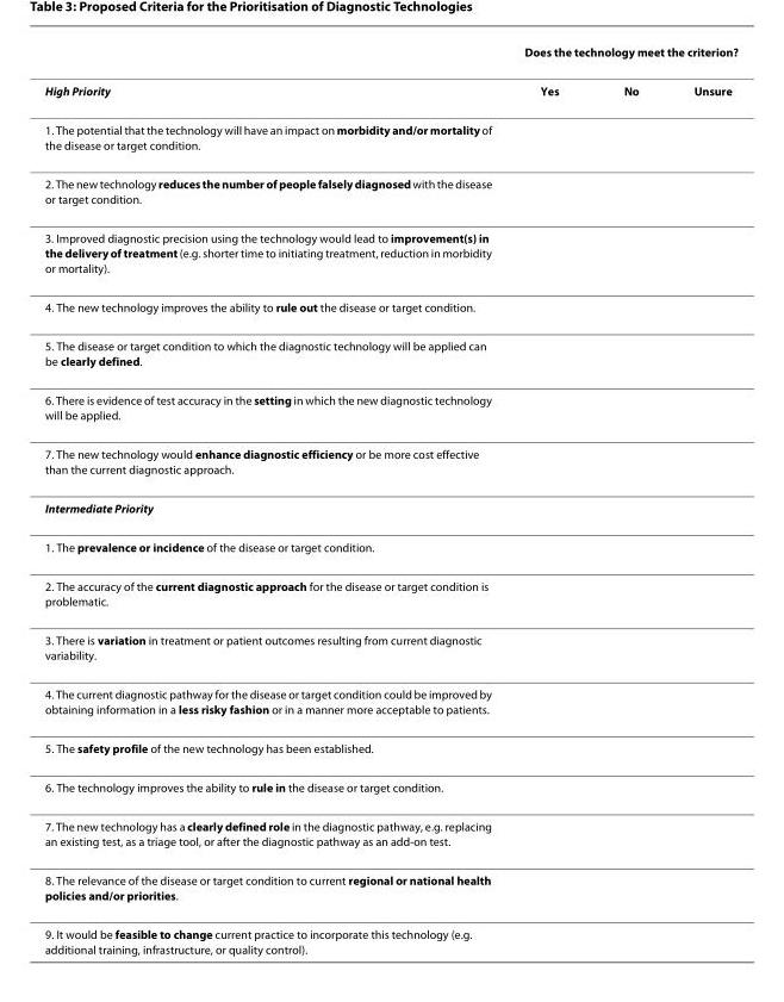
<table><thead><tr><td rowspan="2">High Priority</td><td colspan="3">Does the technology meet the criterion?</td></tr><tr><td>Yes</td><td>No</td><td>Unsure</td></tr></thead><tbody><tr><td colspan="4">1. The potential that the technology will have an impact on morbidity and/or mortality of the disease or target condition.</td></tr><tr><td colspan="4">2. The new technology reduces the number of people falsely diagnosed with the disease or target condition.</td></tr><tr><td colspan="4">3. Improved diagnostic precision using the technology would lead to improvement(s) in the delivery of treatment (e.g. shorter time to initiating treatment, reduction in morbidity or mortality).</td></tr><tr><td colspan="4">4. The new technology improves the ability to rule out the disease or target condition.</td></tr><tr><td colspan="4">5. The disease or target condition to which the diagnostic technology will be applied can be clearly defined.</td></tr><tr><td colspan="4">6. There is evidence of test accuracy in the setting in which the new diagnostic technology will be applied.</td></tr><tr><td colspan="4">7. The new technology would enhance diagnostic efficiency or be more cost effective than the current diagnostic approach.</td></tr><tr><td colspan="4">Intermediate Priority</td></tr><tr><td colspan="4">1. The prevalence or incidence of the disease or target condition.</td></tr><tr><td colspan="4">2. The accuracy of the current diagnostic approach for the disease or target condition is problematic.</td></tr><tr><td colspan="4">3. There is variation in treatment or patient outcomes resulting from current diagnostic variability.</td></tr><tr><td colspan="4">4. The current diagnostic pathway for the disease or target condition could be improved by obtaining information in a less risky fashion or in a manner more acceptable to patients.</td></tr><tr><td colspan="4">5. The safety profile of the new technology has been established.</td></tr><tr><td colspan="4">6. The technology improves the ability to rule in the disease or target condition.</td></tr><tr><td colspan="4">7. The new technology has a clearly defined role in the diagnostic pathway, e.g. replacing an existing test, as a triage tool, or after the diagnostic pathway as an add-on test.</td></tr><tr><td colspan="4">8. The relevance of the disease or target condition to current regional or national health policies and/or priorities.</td></tr><tr><td>9. It would be feasible to change current practice to incorporate this technology (e.g. additional training, infrastructure, or quality control).</td><td></td><td></td><td></td></tr></tbody></table>